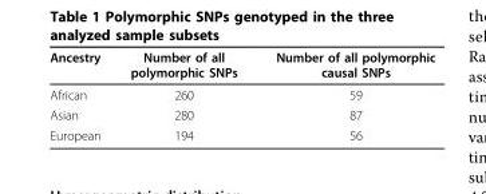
<table><thead><tr><td>Ancestry</td><td>Number of all polymorphic SNPs</td><td>Number of all polymorphic causal SNPs</td></tr></thead><tbody><tr><td>African</td><td>260</td><td>59</td></tr><tr><td>Asian</td><td>280</td><td>87</td></tr><tr><td>European</td><td>194</td><td>56</td></tr></tbody></table>